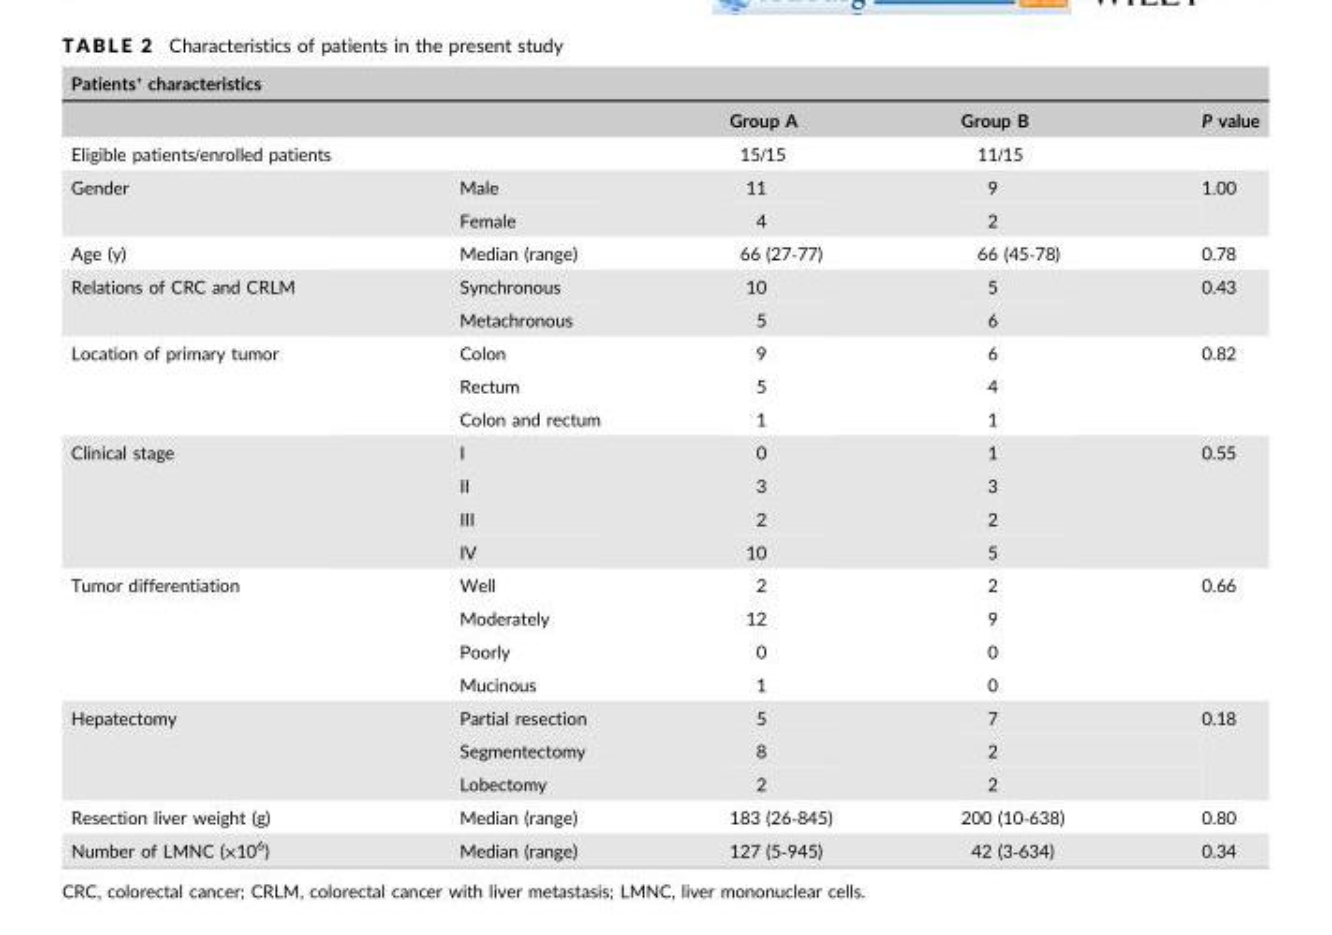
<table><thead><tr><td colspan="5">Patients’ characteristics</td></tr><tr><td></td><td></td><td>Group A</td><td>Group B</td><td>P value</td></tr></thead><tbody><tr><td>Eligible patients/enrolled patients</td><td></td><td>15/15</td><td>11/15</td><td></td></tr><tr><td rowspan="2">Gender</td><td>Male</td><td>11</td><td>9</td><td rowspan="2">1.00</td></tr><tr><td>Female</td><td>4</td><td>2</td></tr><tr><td>Age (y)</td><td>Median (range)</td><td>66 (27‐77)</td><td>66 (45‐78)</td><td>0.78</td></tr><tr><td rowspan="2">Relations of CRC and CRLM</td><td>Synchronous</td><td>10</td><td>5</td><td rowspan="2">0.43</td></tr><tr><td>Metachronous</td><td>5</td><td>6</td></tr><tr><td rowspan="3">Location of primary tumor</td><td>Colon</td><td>9</td><td>6</td><td rowspan="3">0.82</td></tr><tr><td>Rectum</td><td>5</td><td>4</td></tr><tr><td>Colon and rectum</td><td>1</td><td>1</td></tr><tr><td rowspan="4">Clinical stage</td><td>I</td><td>0</td><td>1</td><td rowspan="4">0.55</td></tr><tr><td>II</td><td>3</td><td>3</td></tr><tr><td>III</td><td>2</td><td>2</td></tr><tr><td>IV</td><td>10</td><td>5</td></tr><tr><td rowspan="4">Tumor differentiation</td><td>Well</td><td>2</td><td>2</td><td rowspan="4">0.66</td></tr><tr><td>Moderately</td><td>12</td><td>9</td></tr><tr><td>Poorly</td><td>0</td><td>0</td></tr><tr><td>Mucinous</td><td>1</td><td>0</td></tr><tr><td rowspan="3">Hepatectomy</td><td>Partial resection</td><td>5</td><td>7</td><td rowspan="3">0.18</td></tr><tr><td>Segmentectomy</td><td>8</td><td>2</td></tr><tr><td>Lobectomy</td><td>2</td><td>2</td></tr><tr><td>Resection liver weight (g)</td><td>Median (range)</td><td>183 (26‐845)</td><td>200 (10‐638)</td><td>0.80</td></tr><tr><td>Number of LMNC (×10<sup>6</sup>)</td><td>Median (range)</td><td>127 (5‐945)</td><td>42 (3‐634)</td><td>0.34</td></tr></tbody></table>